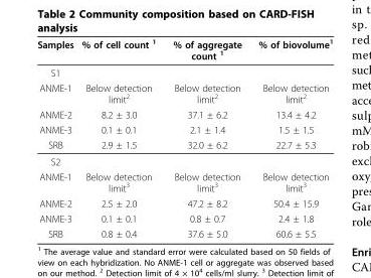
<table><thead><tr><td>Samples</td><td>% of cell count <sup>1</sup></td><td>% of aggregate count <sup>1</sup></td><td>% of biovolume<sup>1</sup></td></tr></thead><tbody><tr><td colspan="4">S1</td></tr><tr><td>ANME-1</td><td>Below detection limit<sup>2</sup></td><td>Below detection limit<sup>2</sup></td><td>Below detection limit<sup>2</sup></td></tr><tr><td>ANME-2</td><td>8.2 ± 3.0</td><td>37.1 ± 6.2</td><td>13.4 ± 4.2</td></tr><tr><td>ANME-3</td><td>0.1 ± 0.1</td><td>2.1 ± 1.4</td><td>1.5 ± 1.5</td></tr><tr><td>SRB</td><td>2.9 ± 1.5</td><td>32.0 ± 6.2</td><td>22.7 ± 5.3</td></tr><tr><td colspan="4">S2</td></tr><tr><td>ANME-1</td><td>Below detection limit<sup>3</sup></td><td>Below detection limit<sup>3</sup></td><td>Below detection limit<sup>3</sup></td></tr><tr><td>ANME-2</td><td>2.5 ± 2.0</td><td>47.2 ± 8.2</td><td>50.4 ± 15.9</td></tr><tr><td>ANME-3</td><td>0.1 ± 0.1</td><td>0.8 ± 0.7</td><td>2.4 ± 1.8</td></tr><tr><td>SRB</td><td>0.8 ± 0.4</td><td>37.6 ± 5.0</td><td>60.6 ± 5.5</td></tr></tbody></table>